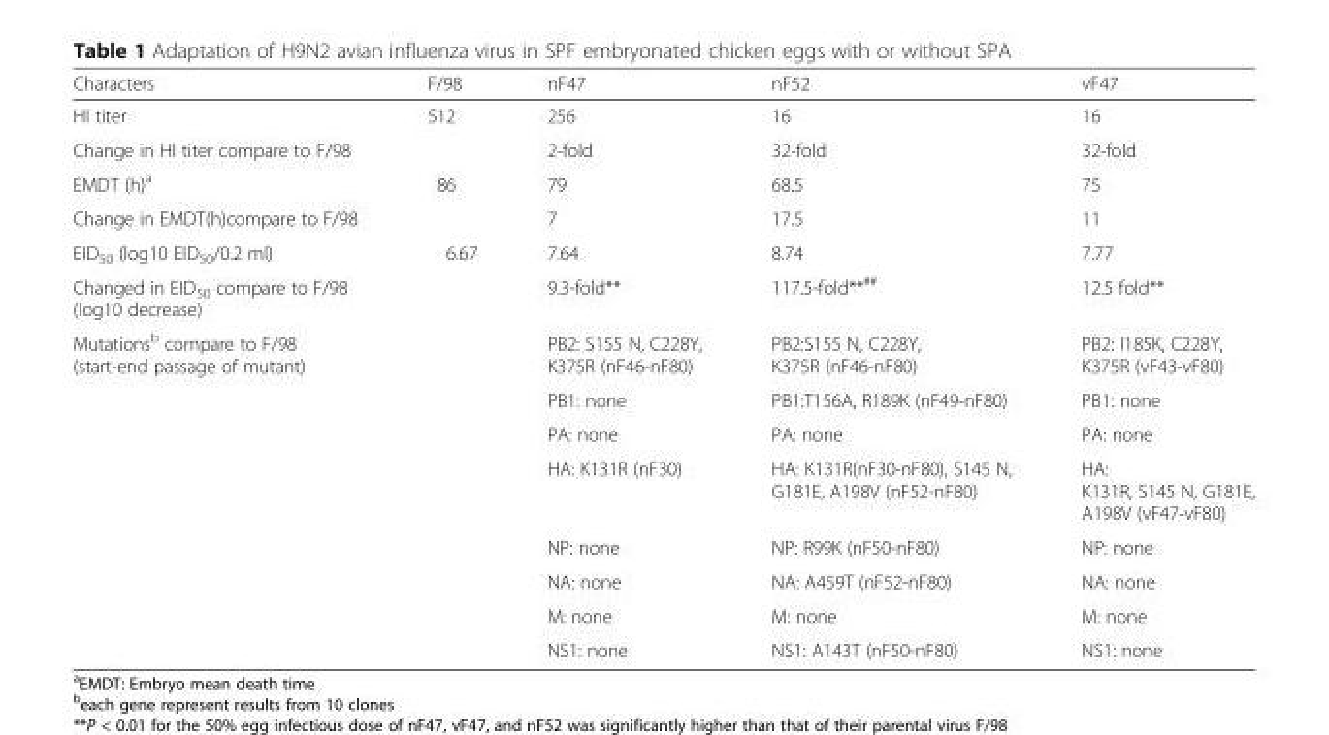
<table><thead><tr><td>Characters</td><td>F/98</td><td>nF47</td><td>nF52</td><td>vF47</td></tr></thead><tbody><tr><td>HI titer</td><td>512</td><td>256</td><td>16</td><td>16</td></tr><tr><td>Change in HI titer compare to F/98</td><td></td><td>2-fold</td><td>32-fold</td><td>32-fold</td></tr><tr><td>EMDT (h)<sup>a</sup></td><td>86</td><td>79</td><td>68.5</td><td>75</td></tr><tr><td>Change in EMDT(h)compare to F/98</td><td></td><td>7</td><td>17.5</td><td>11</td></tr><tr><td>EID<sub>50</sub> (log10 EID<sub>50</sub>/0.2 ml)</td><td>6.67</td><td>7.64</td><td>8.74</td><td>7.77</td></tr><tr><td>Changed in EID<sub>50</sub> compare to F/98 (log10 decrease)</td><td></td><td>9.3-fold**</td><td>117.5-fold**<sup>##</sup></td><td>12.5 fold**</td></tr><tr><td rowspan="8">Mutations<sup>b</sup> compare to F/98 (start-end passage of mutant)</td><td></td><td>PB2: S155 N, C228Y, K375R (nF46-nF80)</td><td>PB2:S155 N, C228Y, K375R (nF46-nF80)</td><td>PB2: I185K, C228Y, K375R (vF43-vF80)</td></tr><tr><td></td><td>PB1: none</td><td>PB1:T156A, R189K (nF49-nF80)</td><td>PB1: none</td></tr><tr><td></td><td>PA: none</td><td>PA: none</td><td>PA: none</td></tr><tr><td></td><td>HA: K131R (nF30)</td><td>HA: K131R(nF30-nF80), S145 N, G181E, A198V (nF52-nF80)</td><td>HA: K131R, S145 N, G181E, A198V (vF47-vF80)</td></tr><tr><td></td><td>NP: none</td><td>NP: R99K (nF50-nF80)</td><td>NP: none</td></tr><tr><td></td><td>NA: none</td><td>NA: A459T (nF52-nF80)</td><td>NA: none</td></tr><tr><td></td><td>M: none</td><td>M: none</td><td>M: none</td></tr><tr><td></td><td>NS1: none</td><td>NS1: A143T (nF50-nF80)</td><td>NS1: none</td></tr></tbody></table>